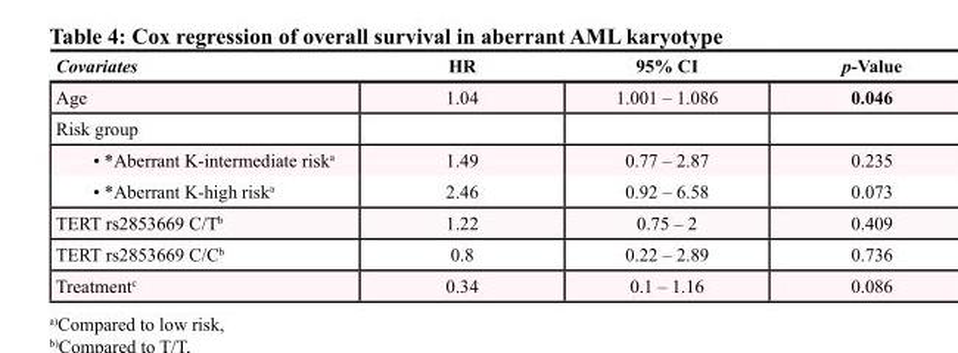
<table><thead><tr><td>Covariates</td><td>HR</td><td>95% CI</td><td>p-Value</td></tr></thead><tbody><tr><td>Age</td><td>1.04</td><td>1.001 – 1.086</td><td>0.046</td></tr><tr><td colspan="4">Risk group</td></tr><tr><td>• *Aberrant K-intermediate risk<sup>a</sup></td><td>1.49</td><td>0.77 – 2.87</td><td>0.235</td></tr><tr><td>• *Aberrant K-high risk<sup>a</sup></td><td>2.46</td><td>0.92 – 6.58</td><td>0.073</td></tr><tr><td>TERT rs2853669 C/T<sup>b</sup></td><td>1.22</td><td>0.75 – 2</td><td>0.409</td></tr><tr><td>TERT rs2853669 C/C<sup>b</sup></td><td>0.8</td><td>0.22 – 2.89</td><td>0.736</td></tr><tr><td>Treatment<sup>c</sup></td><td>0.34</td><td>0.1 – 1.16</td><td>0.086</td></tr></tbody></table>